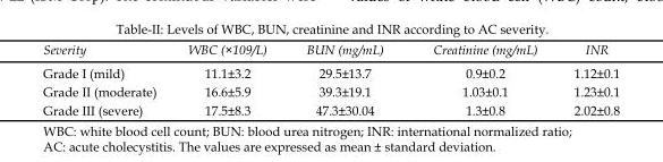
<table><thead><tr><td>Severity</td><td>WBC (×10<sup>9</sup>/L)</td><td>BUN (mg/mL)</td><td>Creatinine (mg/mL)</td><td>INR</td></tr></thead><tbody><tr><td>Grade I (mild)</td><td>11.1±3.2</td><td>29.5±13.7</td><td>0.9±0.2</td><td>1.12±0.1</td></tr><tr><td>Grade II (moderate)</td><td>16.6±5.9</td><td>39.3±19.1</td><td>1.03±0.1</td><td>1.23±0.1</td></tr><tr><td>Grade III (severe)</td><td>17.5±8.3</td><td>47.3±30.04</td><td>1.3±0.8</td><td>2.02±0.8</td></tr></tbody></table>